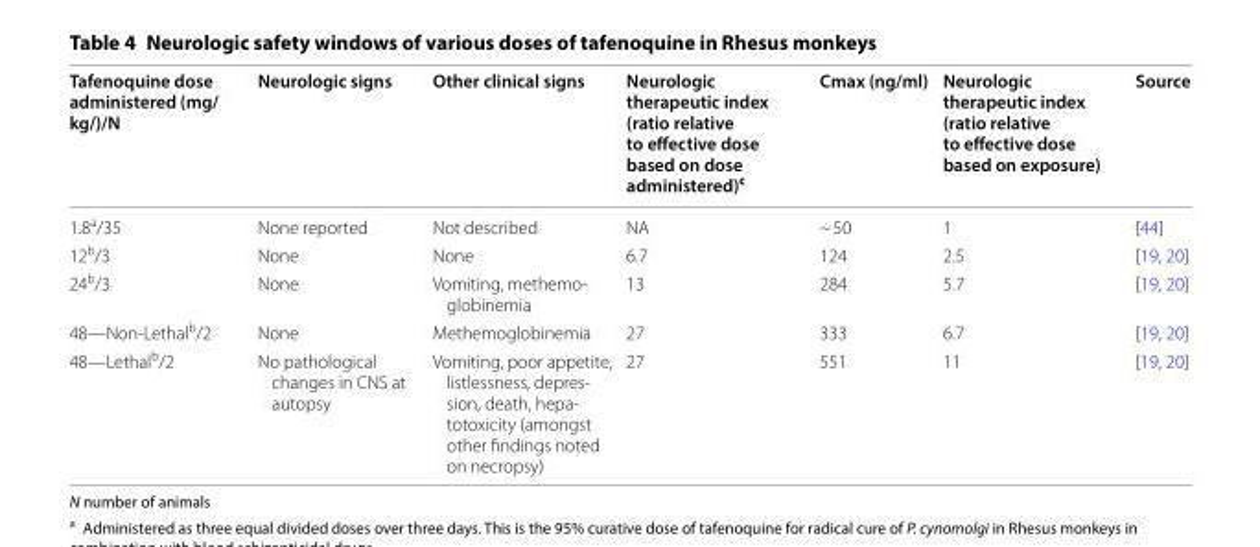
<table><thead><tr><td>Tafenoquine dose administered (mg/ kg/)/N</td><td>Neurologic signs</td><td>Other clinical signs</td><td>Neurologic therapeutic index (ratio relative to effective dose based on dose administered)<sup>c</sup></td><td>Cmax (ng/ml)</td><td>Neurologic therapeutic index (ratio relative to effective dose based on exposure)</td><td>Source</td></tr></thead><tbody><tr><td>1.8<sup>a</sup>/35</td><td>None reported</td><td>Not described</td><td>NA</td><td>~ 50</td><td>1</td><td>[44]</td></tr><tr><td>12<sup>b</sup>/3</td><td>None</td><td>None</td><td>6.7</td><td>124</td><td>2.5</td><td>[19, 20]</td></tr><tr><td>24<sup>b</sup>/3</td><td>None</td><td>Vomiting, methemo- globinemia</td><td>13</td><td>284</td><td>5.7</td><td>[19, 20]</td></tr><tr><td>48—Non-Lethal<sup>b</sup>/2</td><td>None</td><td>Methemoglobinemia</td><td>27</td><td>333</td><td>6.7</td><td>[19, 20]</td></tr><tr><td>48—Lethal<sup>b</sup>/2</td><td>No pathological changes in CNS at autopsy</td><td>Vomiting, poor appetite, listlessness, depres- sion, death, hepa- totoxicity (amongst other findings noted on necropsy)</td><td>27</td><td>551</td><td>11</td><td>[19, 20]</td></tr></tbody></table>